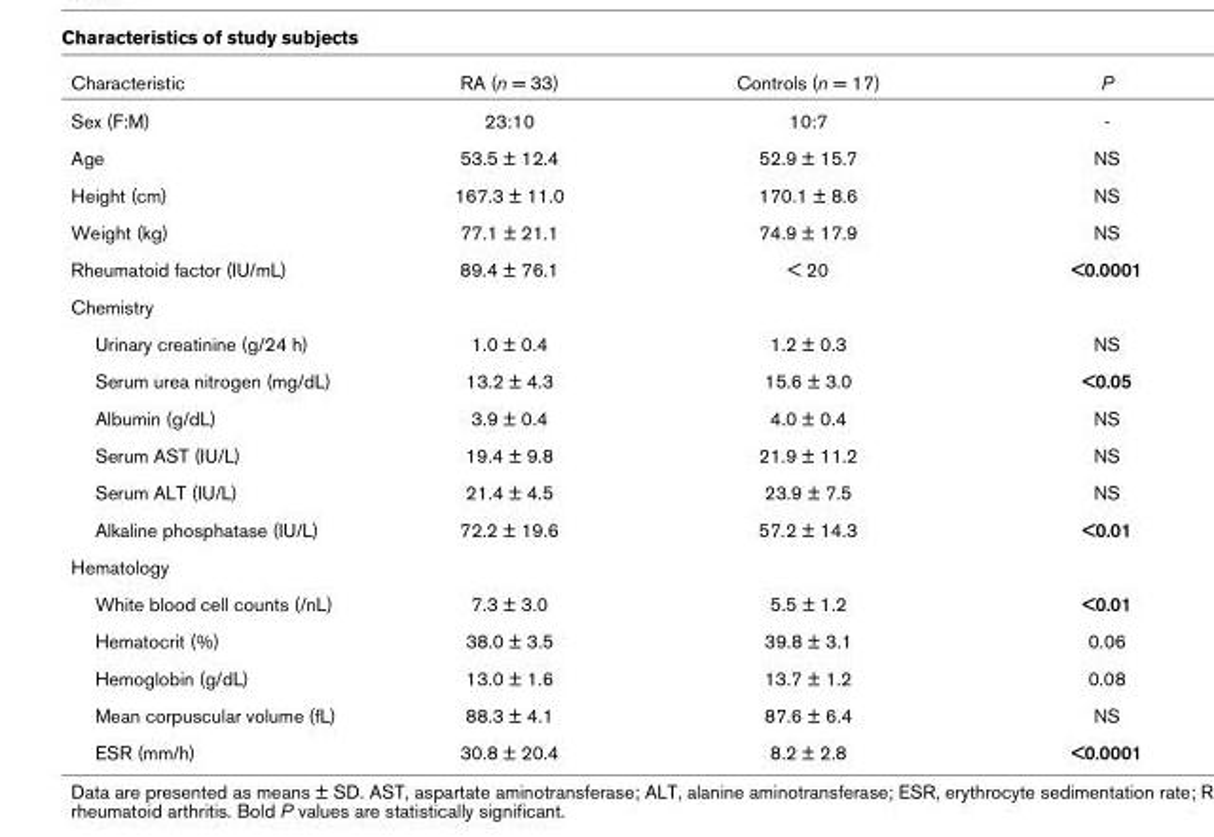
<table><thead><tr><td>Characteristic</td><td>RA (n = 33)</td><td>Controls (n = 17)</td><td>P</td></tr></thead><tbody><tr><td>Sex (F:M)</td><td>23:10</td><td>10:7</td><td>-</td></tr><tr><td>Age</td><td>53.5 ± 12.4</td><td>52.9 ± 15.7</td><td>NS</td></tr><tr><td>Height (cm)</td><td>167.3 ± 11.0</td><td>170.1 ± 8.6</td><td>NS</td></tr><tr><td>Weight (kg)</td><td>77.1 ± 21.1</td><td>74.9 ± 17.9</td><td>NS</td></tr><tr><td>Rheumatoid factor (IU/mL)</td><td>89.4 ± 76.1</td><td>&lt; 20</td><td>&lt;0.0001</td></tr><tr><td colspan="4">Chemistry</td></tr><tr><td>Urinary creatinine (g/24 h)</td><td>1.0 ± 0.4</td><td>1.2 ± 0.3</td><td>NS</td></tr><tr><td>Serum urea nitrogen (mg/dL)</td><td>13.2 ± 4.3</td><td>15.6 ± 3.0</td><td>&lt;0.05</td></tr><tr><td>Albumin (g/dL)</td><td>3.9 ± 0.4</td><td>4.0 ± 0.4</td><td>NS</td></tr><tr><td>Serum AST (IU/L)</td><td>19.4 ± 9.8</td><td>21.9 ± 11.2</td><td>NS</td></tr><tr><td>Serum ALT (IU/L)</td><td>21.4 ± 4.5</td><td>23.9 ± 7.5</td><td>NS</td></tr><tr><td>Alkaline phosphatase (IU/L)</td><td>72.2 ± 19.6</td><td>57.2 ± 14.3</td><td>&lt;0.01</td></tr><tr><td colspan="4">Hematology</td></tr><tr><td>White blood cell counts (/nL)</td><td>7.3 ± 3.0</td><td>5.5 ± 1.2</td><td>&lt;0.01</td></tr><tr><td>Hematocrit (%)</td><td>38.0 ± 3.5</td><td>39.8 ± 3.1</td><td>0.06</td></tr><tr><td>Hemoglobin (g/dL)</td><td>13.0 ± 1.6</td><td>13.7 ± 1.2</td><td>0.08</td></tr><tr><td>Mean corpuscular volume (fL)</td><td>88.3 ± 4.1</td><td>87.6 ± 6.4</td><td>NS</td></tr><tr><td>ESR (mm/h)</td><td>30.8 ± 20.4</td><td>8.2 ± 2.8</td><td>&lt;0.0001</td></tr></tbody></table>